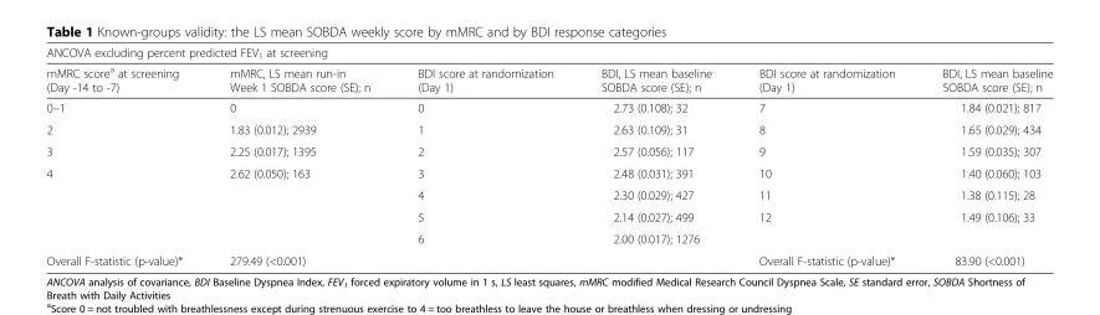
<table><thead><tr><td colspan="6">ANCOVA excluding percent predicted FEV<sub>1</sub> at screening</td></tr><tr><td>mMRC score<sup>a</sup> at screening (Day -14 to -7)</td><td>mMRC, LS mean run-in Week 1 SOBDA score (SE); n</td><td>BDI score at randomization (Day 1)</td><td>BDI, LS mean baseline SOBDA score (SE); n</td><td>BDI score at randomization (Day 1)</td><td>BDI, LS mean baseline SOBDA score (SE); n</td></tr></thead><tbody><tr><td>0–1</td><td>0</td><td>0</td><td>2.73 (0.108); 32</td><td>7</td><td>1.84 (0.021); 817</td></tr><tr><td>2</td><td>1.83 (0.012); 2939</td><td>1</td><td>2.63 (0.109); 31</td><td>8</td><td>1.65 (0.029); 434</td></tr><tr><td>3</td><td>2.25 (0.017); 1395</td><td>2</td><td>2.57 (0.056); 117</td><td>9</td><td>1.59 (0.035); 307</td></tr><tr><td rowspan="4">4</td><td>2.62 (0.050); 163</td><td>3</td><td>2.48 (0.031); 391</td><td>10</td><td>1.40 (0.060); 103</td></tr><tr><td></td><td>4</td><td>2.30 (0.029); 427</td><td>11</td><td>1.38 (0.115); 28</td></tr><tr><td></td><td>5</td><td>2.14 (0.027); 499</td><td>12</td><td>1.49 (0.106); 33</td></tr><tr><td></td><td>6</td><td>2.00 (0.017); 1276</td><td></td><td></td></tr><tr><td>Overall F-statistic (p-value)*</td><td>279.49 (&lt;0.001)</td><td></td><td></td><td>Overall F-statistic (p-value)*</td><td>83.90 (&lt;0.001)</td></tr></tbody></table>